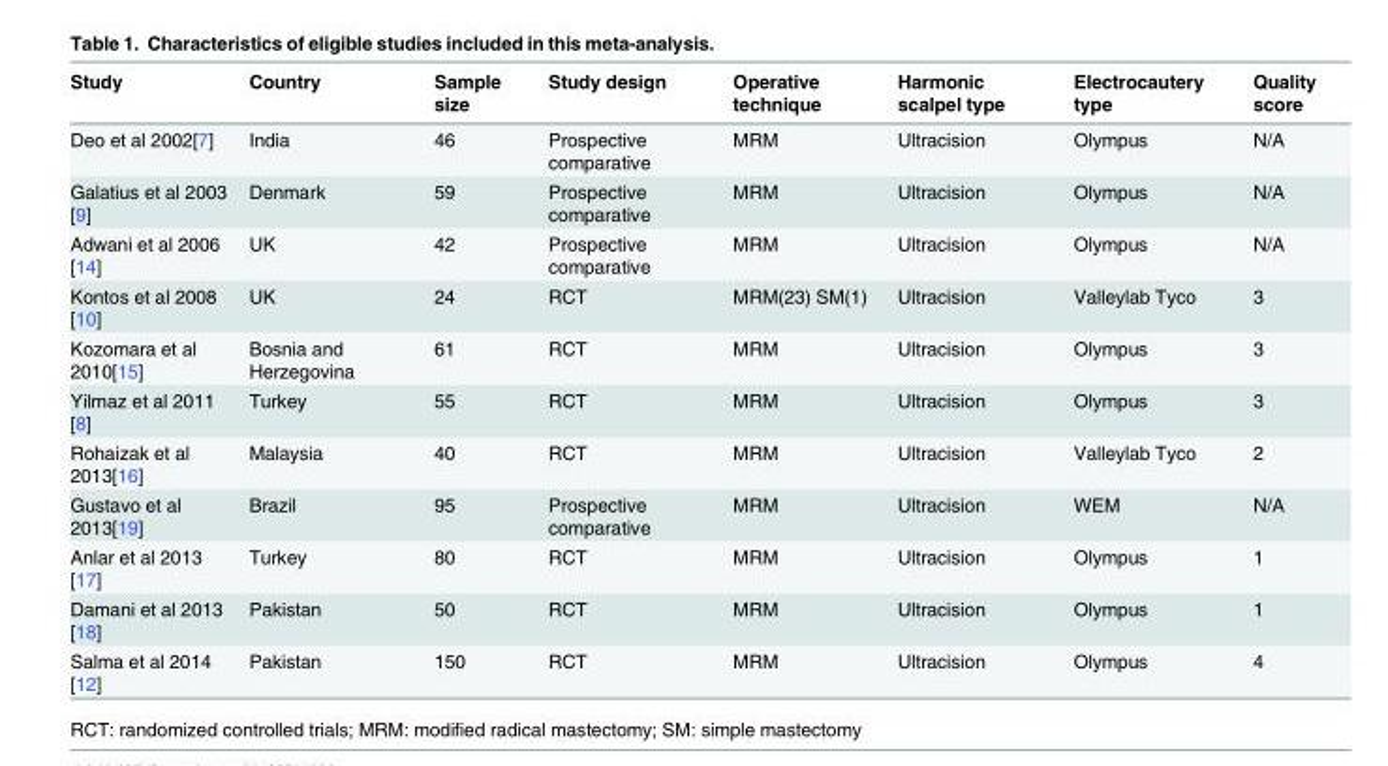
<table><thead><tr><td>Study</td><td>Country</td><td>Sample size</td><td>Study design</td><td>Operative technique</td><td>Harmonic scalpel type</td><td>Electrocautery type</td><td>Quality score</td></tr></thead><tbody><tr><td>Deo et al 2002[7]</td><td>India</td><td>46</td><td>Prospective comparative</td><td>MRM</td><td>Ultracision</td><td>Olympus</td><td>N/A</td></tr><tr><td>Galatius et al 2003 [9]</td><td>Denmark</td><td>59</td><td>Prospective comparative</td><td>MRM</td><td>Ultracision</td><td>Olympus</td><td>N/A</td></tr><tr><td>Adwani et al 2006 [14]</td><td>UK</td><td>42</td><td>Prospective comparative</td><td>MRM</td><td>Ultracision</td><td>Olympus</td><td>N/A</td></tr><tr><td>Kontos et al 2008 [10]</td><td>UK</td><td>24</td><td>RCT</td><td>MRM(23) SM(1)</td><td>Ultracision</td><td>Valleylab Tyco</td><td>3</td></tr><tr><td>Kozomara et al 2010[15]</td><td>Bosnia and Herzegovina</td><td>61</td><td>RCT</td><td>MRM</td><td>Ultracision</td><td>Olympus</td><td>3</td></tr><tr><td>Yilmaz et al 2011 [8]</td><td>Turkey</td><td>55</td><td>RCT</td><td>MRM</td><td>Ultracision</td><td>Olympus</td><td>3</td></tr><tr><td>Rohaizak et al 2013[16]</td><td>Malaysia</td><td>40</td><td>RCT</td><td>MRM</td><td>Ultracision</td><td>Valleylab Tyco</td><td>2</td></tr><tr><td>Gustavo et al 2013[19]</td><td>Brazil</td><td>95</td><td>Prospective comparative</td><td>MRM</td><td>Ultracision</td><td>WEM</td><td>N/A</td></tr><tr><td>Anlar et al 2013 [17]</td><td>Turkey</td><td>80</td><td>RCT</td><td>MRM</td><td>Ultracision</td><td>Olympus</td><td>1</td></tr><tr><td>Damani et al 2013 [18]</td><td>Pakistan</td><td>50</td><td>RCT</td><td>MRM</td><td>Ultracision</td><td>Olympus</td><td>1</td></tr><tr><td>Salma et al 2014 [12]</td><td>Pakistan</td><td>150</td><td>RCT</td><td>MRM</td><td>Ultracision</td><td>Olympus</td><td>4</td></tr></tbody></table>